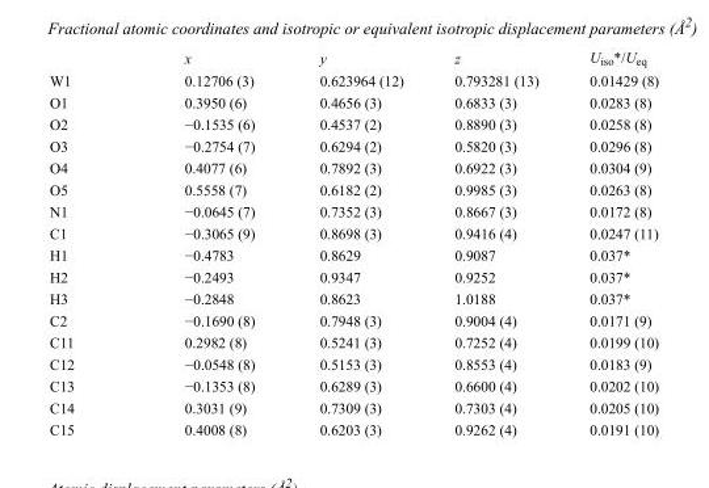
<table><thead><tr><td></td><td>x</td><td>y</td><td>z</td><td>U<sub>iso</sub>*/U<sub>eq</sub></td></tr></thead><tbody><tr><td>W1</td><td>0.12706 (3)</td><td>0.623964 (12)</td><td>0.793281 (13)</td><td>0.01429 (8)</td></tr><tr><td>O1</td><td>0.3950 (6)</td><td>0.4656 (3)</td><td>0.6833 (3)</td><td>0.0283 (8)</td></tr><tr><td>O2</td><td>−0.1535 (6)</td><td>0.4537 (2)</td><td>0.8890 (3)</td><td>0.0258 (8)</td></tr><tr><td>O3</td><td>−0.2754 (7)</td><td>0.6294 (2)</td><td>0.5820 (3)</td><td>0.0296 (8)</td></tr><tr><td>O4</td><td>0.4077 (6)</td><td>0.7892 (3)</td><td>0.6922 (3)</td><td>0.0304 (9)</td></tr><tr><td>O5</td><td>0.5558 (7)</td><td>0.6182 (2)</td><td>0.9985 (3)</td><td>0.0263 (8)</td></tr><tr><td>N1</td><td>−0.0645 (7)</td><td>0.7352 (3)</td><td>0.8667 (3)</td><td>0.0172 (8)</td></tr><tr><td>C1</td><td>−0.3065 (9)</td><td>0.8698 (3)</td><td>0.9416 (4)</td><td>0.0247 (11)</td></tr><tr><td>H1</td><td>−0.4783</td><td>0.8629</td><td>0.9087</td><td>0.037*</td></tr><tr><td>H2</td><td>−0.2493</td><td>0.9347</td><td>0.9252</td><td>0.037*</td></tr><tr><td>H3</td><td>−0.2848</td><td>0.8623</td><td>1.0188</td><td>0.037*</td></tr><tr><td>C2</td><td>−0.1690 (8)</td><td>0.7948 (3)</td><td>0.9004 (4)</td><td>0.0171 (9)</td></tr><tr><td>C11</td><td>0.2982 (8)</td><td>0.5241 (3)</td><td>0.7252 (4)</td><td>0.0199 (10)</td></tr><tr><td>C12</td><td>−0.0548 (8)</td><td>0.5153 (3)</td><td>0.8553 (4)</td><td>0.0183 (9)</td></tr><tr><td>C13</td><td>−0.1353 (8)</td><td>0.6289 (3)</td><td>0.6600 (4)</td><td>0.0202 (10)</td></tr><tr><td>C14</td><td>0.3031 (9)</td><td>0.7309 (3)</td><td>0.7303 (4)</td><td>0.0205 (10)</td></tr><tr><td>C15</td><td>0.4008 (8)</td><td>0.6203 (3)</td><td>0.9262 (4)</td><td>0.0191 (10)</td></tr></tbody></table>